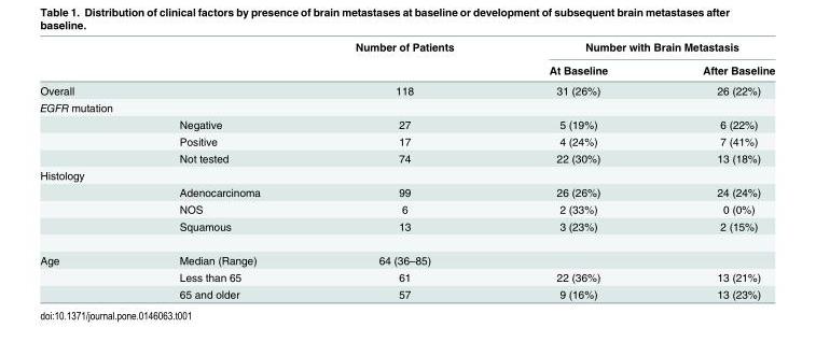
<table><thead><tr><td rowspan="2"></td><td rowspan="2"></td><td rowspan="2">Number of Patients</td><td colspan="2">Number with Brain Metastasis</td></tr><tr><td>At Baseline</td><td>After Baseline</td></tr></thead><tbody><tr><td>Overall</td><td></td><td>118</td><td>31 (26%)</td><td>26 (22%)</td></tr><tr><td colspan="5">EGFR mutation</td></tr><tr><td></td><td>Negative</td><td>27</td><td>5 (19%)</td><td>6 (22%)</td></tr><tr><td></td><td>Positive</td><td>17</td><td>4 (24%)</td><td>7 (41%)</td></tr><tr><td></td><td>Not tested</td><td>74</td><td>22 (30%)</td><td>13 (18%)</td></tr><tr><td colspan="5">Histology</td></tr><tr><td></td><td>Adenocarcinoma</td><td>99</td><td>26 (26%)</td><td>24 (24%)</td></tr><tr><td></td><td>NOS</td><td>6</td><td>2 (33%)</td><td>0 (0%)</td></tr><tr><td></td><td>Squamous</td><td>13</td><td>3 (23%)</td><td>2 (15%)</td></tr><tr><td rowspan="3">Age</td><td>Median (Range)</td><td>64 (36–85)</td><td></td><td></td></tr><tr><td>Less than 65</td><td>61</td><td>22 (36%)</td><td>13 (21%)</td></tr><tr><td>65 and older</td><td>57</td><td>9 (16%)</td><td>13 (23%)</td></tr></tbody></table>